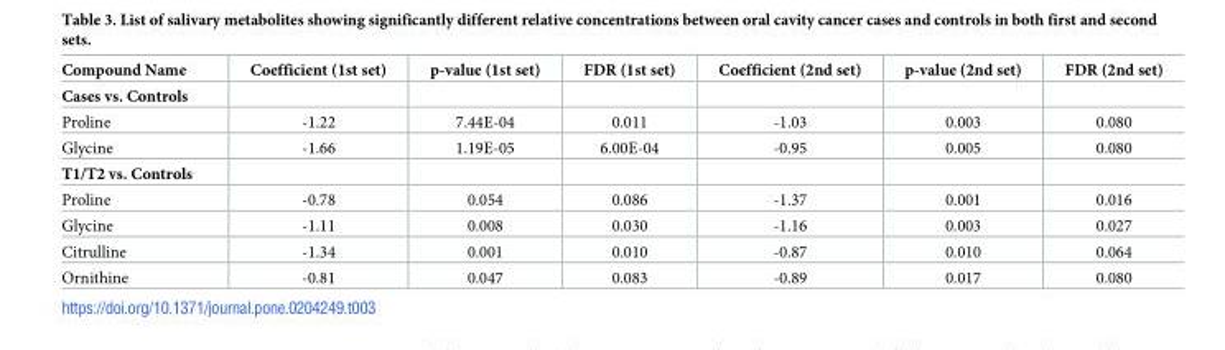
<table><thead><tr><td>Compound Name</td><td>Coefficient (1st set)</td><td>p-value (1st set)</td><td>FDR (1st set)</td><td>Coefficient (2nd set)</td><td>p-value (2nd set)</td><td>FDR (2nd set)</td></tr></thead><tbody><tr><td colspan="7">Cases vs. Controls</td></tr><tr><td>Proline</td><td>-1.22</td><td>7.44E-04</td><td>0.011</td><td>-1.03</td><td>0.003</td><td>0.080</td></tr><tr><td>Glycine</td><td>-1.66</td><td>1.19E-05</td><td>6.00E-04</td><td>-0.95</td><td>0.005</td><td>0.080</td></tr><tr><td colspan="7">T1/T2 vs. Controls</td></tr><tr><td>Proline</td><td>-0.78</td><td>0.054</td><td>0.086</td><td>-1.37</td><td>0.001</td><td>0.016</td></tr><tr><td>Glycine</td><td>-1.11</td><td>0.008</td><td>0.030</td><td>-1.16</td><td>0.003</td><td>0.027</td></tr><tr><td>Citrulline</td><td>-1.34</td><td>0.001</td><td>0.010</td><td>-0.87</td><td>0.010</td><td>0.064</td></tr><tr><td>Ornithine</td><td>-0.81</td><td>0.047</td><td>0.083</td><td>-0.89</td><td>0.017</td><td>0.080</td></tr></tbody></table>